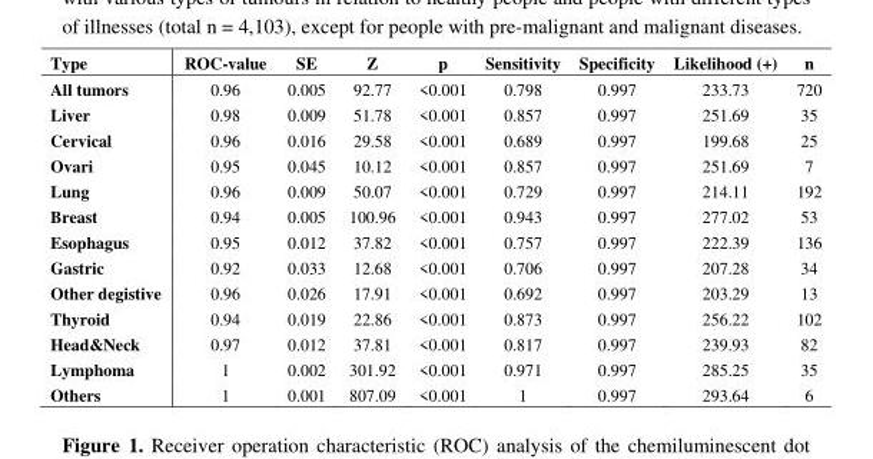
<table><thead><tr><td>Type</td><td>ROC-value</td><td>SE</td><td>Z</td><td>p</td><td>Sensitivity</td><td>Specificity</td><td>Likelihood (+)</td><td>n</td></tr></thead><tbody><tr><td>All tumors</td><td>0.96</td><td>0.005</td><td>92.77</td><td>&lt;0.001</td><td>0.798</td><td>0.997</td><td>233.73</td><td>720</td></tr><tr><td>Liver</td><td>0.98</td><td>0.009</td><td>51.78</td><td>&lt;0.001</td><td>0.857</td><td>0.997</td><td>251.69</td><td>35</td></tr><tr><td>Cervical</td><td>0.96</td><td>0.016</td><td>29.58</td><td>&lt;0.001</td><td>0.689</td><td>0.997</td><td>199.68</td><td>25</td></tr><tr><td>Ovari</td><td>0.95</td><td>0.045</td><td>10.12</td><td>&lt;0.001</td><td>0.857</td><td>0.997</td><td>251.69</td><td>7</td></tr><tr><td>Lung</td><td>0.96</td><td>0.009</td><td>50.07</td><td>&lt;0.001</td><td>0.729</td><td>0.997</td><td>214.11</td><td>192</td></tr><tr><td>Breast</td><td>0.94</td><td>0.005</td><td>100.96</td><td>&lt;0.001</td><td>0.943</td><td>0.997</td><td>277.02</td><td>53</td></tr><tr><td>Esophagus</td><td>0.95</td><td>0.012</td><td>37.82</td><td>&lt;0.001</td><td>0.757</td><td>0.997</td><td>222.39</td><td>136</td></tr><tr><td>Gastric</td><td>0.92</td><td>0.033</td><td>12.68</td><td>&lt;0.001</td><td>0.706</td><td>0.997</td><td>207.28</td><td>34</td></tr><tr><td>Other degistive</td><td>0.96</td><td>0.026</td><td>17.91</td><td>&lt;0.001</td><td>0.692</td><td>0.997</td><td>203.29</td><td>13</td></tr><tr><td>Thyroid</td><td>0.94</td><td>0.019</td><td>22.86</td><td>&lt;0.001</td><td>0.873</td><td>0.997</td><td>256.22</td><td>102</td></tr><tr><td>Head&amp;Neck</td><td>0.97</td><td>0.012</td><td>37.81</td><td>&lt;0.001</td><td>0.817</td><td>0.997</td><td>239.93</td><td>82</td></tr><tr><td>Lymphoma</td><td>1</td><td>0.002</td><td>301.92</td><td>&lt;0.001</td><td>0.971</td><td>0.997</td><td>285.25</td><td>35</td></tr><tr><td>Others</td><td>1</td><td>0.001</td><td>807.09</td><td>&lt;0.001</td><td>1</td><td>0.997</td><td>293.64</td><td>6</td></tr></tbody></table>